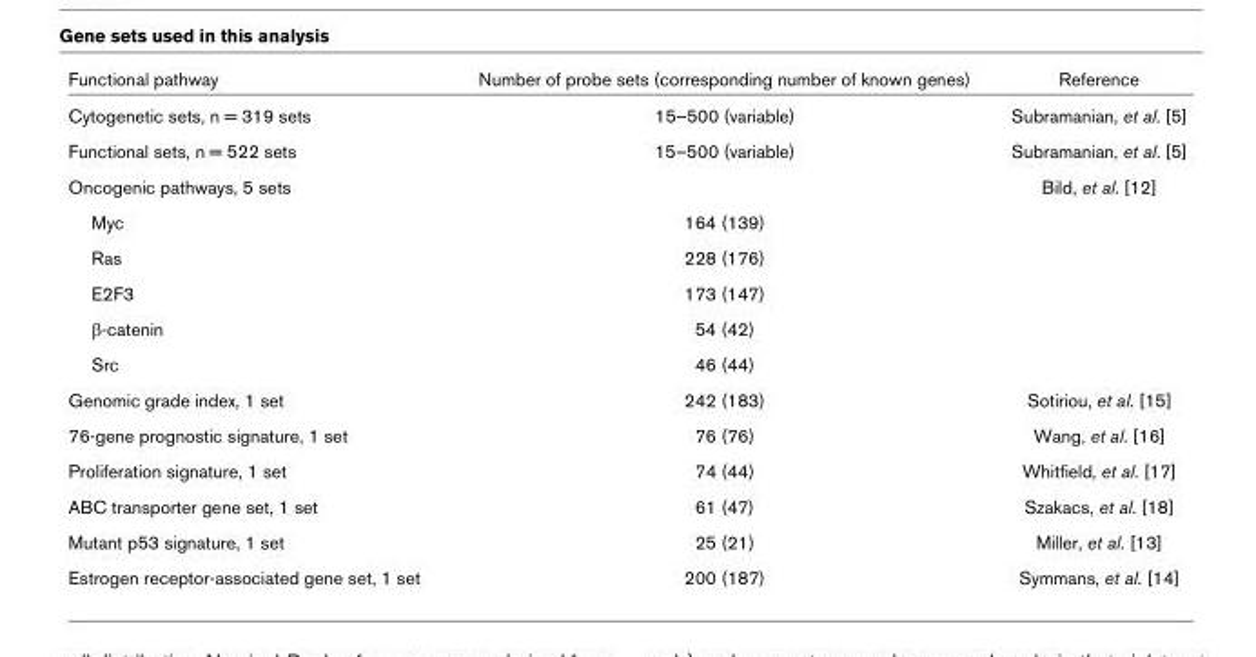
<table><thead><tr><td>Functional pathway</td><td>Number of probe sets (corresponding number of known genes)</td><td>Reference</td></tr></thead><tbody><tr><td>Cytogenetic sets, n = 319 sets</td><td>15–500 (variable)</td><td>Subramanian, et al. [5]</td></tr><tr><td>Functional sets, n = 522 sets</td><td>15–500 (variable)</td><td>Subramanian, et al. [5]</td></tr><tr><td>Oncogenic pathways, 5 sets</td><td></td><td>Bild, et al. [12]</td></tr><tr><td>Myc</td><td>164 (139)</td><td></td></tr><tr><td>Ras</td><td>228 (176)</td><td></td></tr><tr><td>E2F3</td><td>173 (147)</td><td></td></tr><tr><td>β-catenin</td><td>54 (42)</td><td></td></tr><tr><td>Src</td><td>46 (44)</td><td></td></tr><tr><td>Genomic grade index, 1 set</td><td>242 (183)</td><td>Sotiriou, et al. [15]</td></tr><tr><td>76-gene prognostic signature, 1 set</td><td>76 (76)</td><td>Wang, et al. [16]</td></tr><tr><td>Proliferation signature, 1 set</td><td>74 (44)</td><td>Whitfield, et al. [17]</td></tr><tr><td>ABC transporter gene set, 1 set</td><td>61 (47)</td><td>Szakacs, et al. [18]</td></tr><tr><td>Mutant p53 signature, 1 set</td><td>25 (21)</td><td>Miller, et al. [13]</td></tr><tr><td>Estrogen receptor-associated gene set, 1 set</td><td>200 (187)</td><td>Symmans, et al. [14]</td></tr></tbody></table>